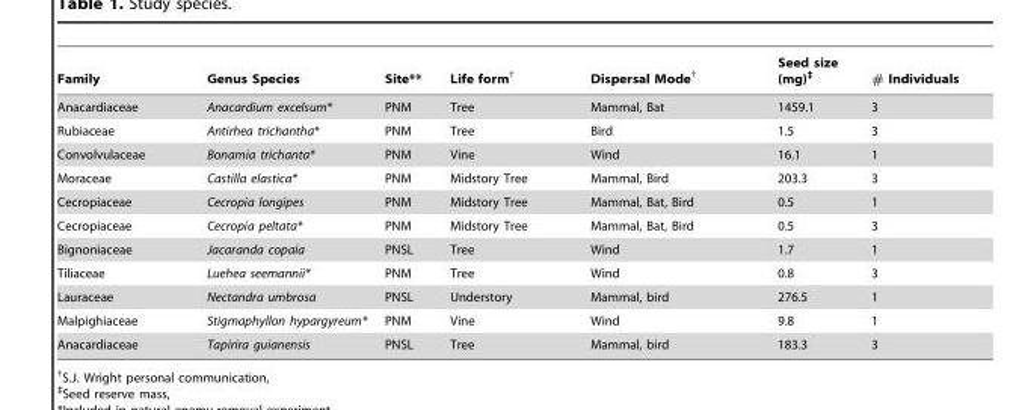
<table><thead><tr><td>Family</td><td>Genus Species</td><td>Site**</td><td>Life form†</td><td>Dispersal Mode†</td><td>Seed size (mg)‡</td><td># Individuals</td></tr></thead><tbody><tr><td>Anacardiaceae</td><td>Anacardium excelsum*</td><td>PNM</td><td>Tree</td><td>Mammal, Bat</td><td>1459.1</td><td>3</td></tr><tr><td>Rubiaceae</td><td>Antirhea trichantha*</td><td>PNM</td><td>Tree</td><td>Bird</td><td>1.5</td><td>3</td></tr><tr><td>Convolvulaceae</td><td>Bonamia trichanta*</td><td>PNM</td><td>Vine</td><td>Wind</td><td>16.1</td><td>1</td></tr><tr><td>Moraceae</td><td>Castilla elastica*</td><td>PNM</td><td>Midstory Tree</td><td>Mammal, Bird</td><td>203.3</td><td>3</td></tr><tr><td>Cecropiaceae</td><td>Cecropia longipes</td><td>PNM</td><td>Midstory Tree</td><td>Mammal, Bat, Bird</td><td>0.5</td><td>1</td></tr><tr><td>Cecropiaceae</td><td>Cecropia peltata*</td><td>PNM</td><td>Midstory Tree</td><td>Mammal, Bat, Bird</td><td>0.5</td><td>3</td></tr><tr><td>Bignoniaceae</td><td>Jacaranda copaia</td><td>PNSL</td><td>Tree</td><td>Wind</td><td>1.7</td><td>1</td></tr><tr><td>Tiliaceae</td><td>Luehea seemannii*</td><td>PNM</td><td>Tree</td><td>Wind</td><td>0.8</td><td>3</td></tr><tr><td>Lauraceae</td><td>Nectandra umbrosa</td><td>PNSL</td><td>Understory</td><td>Mammal, bird</td><td>276.5</td><td>1</td></tr><tr><td>Malpighiaceae</td><td>Stigmaphyllon hypargyreum*</td><td>PNM</td><td>Vine</td><td>Wind</td><td>9.8</td><td>1</td></tr><tr><td>Anacardiaceae</td><td>Tapirira guianensis</td><td>PNSL</td><td>Tree</td><td>Mammal, bird</td><td>183.3</td><td>3</td></tr></tbody></table>